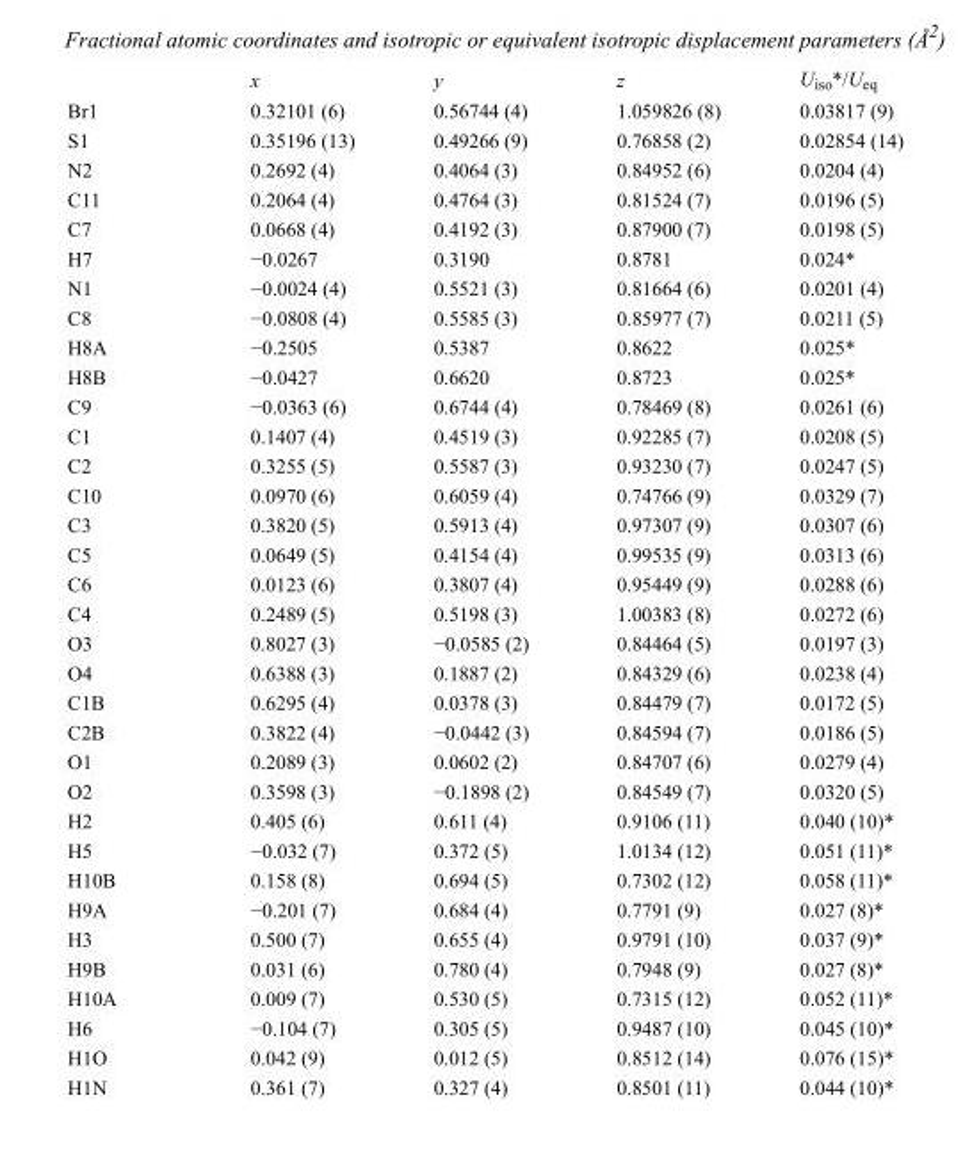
<table><thead><tr><td></td><td>x</td><td>y</td><td>z</td><td>U<sub>iso</sub>*/U<sub>eq</sub></td></tr></thead><tbody><tr><td>Br1</td><td>0.32101 (6)</td><td>0.56744 (4)</td><td>1.059826 (8)</td><td>0.03817 (9)</td></tr><tr><td>S1</td><td>0.35196 (13)</td><td>0.49266 (9)</td><td>0.76858 (2)</td><td>0.02854 (14)</td></tr><tr><td>N2</td><td>0.2692 (4)</td><td>0.4064 (3)</td><td>0.84952 (6)</td><td>0.0204 (4)</td></tr><tr><td>C11</td><td>0.2064 (4)</td><td>0.4764 (3)</td><td>0.81524 (7)</td><td>0.0196 (5)</td></tr><tr><td>C7</td><td>0.0668 (4)</td><td>0.4192 (3)</td><td>0.87900 (7)</td><td>0.0198 (5)</td></tr><tr><td>H7</td><td>−0.0267</td><td>0.3190</td><td>0.8781</td><td>0.024*</td></tr><tr><td>N1</td><td>−0.0024 (4)</td><td>0.5521 (3)</td><td>0.81664 (6)</td><td>0.0201 (4)</td></tr><tr><td>C8</td><td>−0.0808 (4)</td><td>0.5585 (3)</td><td>0.85977 (7)</td><td>0.0211 (5)</td></tr><tr><td>H8A</td><td>−0.2505</td><td>0.5387</td><td>0.8622</td><td>0.025*</td></tr><tr><td>H8B</td><td>−0.0427</td><td>0.6620</td><td>0.8723</td><td>0.025*</td></tr><tr><td>C9</td><td>−0.0363 (6)</td><td>0.6744 (4)</td><td>0.78469 (8)</td><td>0.0261 (6)</td></tr><tr><td>C1</td><td>0.1407 (4)</td><td>0.4519 (3)</td><td>0.92285 (7)</td><td>0.0208 (5)</td></tr><tr><td>C2</td><td>0.3255 (5)</td><td>0.5587 (3)</td><td>0.93230 (7)</td><td>0.0247 (5)</td></tr><tr><td>C10</td><td>0.0970 (6)</td><td>0.6059 (4)</td><td>0.74766 (9)</td><td>0.0329 (7)</td></tr><tr><td>C3</td><td>0.3820 (5)</td><td>0.5913 (4)</td><td>0.97307 (9)</td><td>0.0307 (6)</td></tr><tr><td>C5</td><td>0.0649 (5)</td><td>0.4154 (4)</td><td>0.99535 (9)</td><td>0.0313 (6)</td></tr><tr><td>C6</td><td>0.0123 (6)</td><td>0.3807 (4)</td><td>0.95449 (9)</td><td>0.0288 (6)</td></tr><tr><td>C4</td><td>0.2489 (5)</td><td>0.5198 (3)</td><td>1.00383 (8)</td><td>0.0272 (6)</td></tr><tr><td>O3</td><td>0.8027 (3)</td><td>−0.0585 (2)</td><td>0.84464 (5)</td><td>0.0197 (3)</td></tr><tr><td>O4</td><td>0.6388 (3)</td><td>0.1887 (2)</td><td>0.84329 (6)</td><td>0.0238 (4)</td></tr><tr><td>C1B</td><td>0.6295 (4)</td><td>0.0378 (3)</td><td>0.84479 (7)</td><td>0.0172 (5)</td></tr><tr><td>C2B</td><td>0.3822 (4)</td><td>−0.0442 (3)</td><td>0.84594 (7)</td><td>0.0186 (5)</td></tr><tr><td>O1</td><td>0.2089 (3)</td><td>0.0602 (2)</td><td>0.84707 (6)</td><td>0.0279 (4)</td></tr><tr><td>O2</td><td>0.3598 (3)</td><td>−0.1898 (2)</td><td>0.84549 (7)</td><td>0.0320 (5)</td></tr><tr><td>H2</td><td>0.405 (6)</td><td>0.611 (4)</td><td>0.9106 (11)</td><td>0.040 (10)*</td></tr><tr><td>H5</td><td>−0.032 (7)</td><td>0.372 (5)</td><td>1.0134 (12)</td><td>0.051 (11)*</td></tr><tr><td>H10B</td><td>0.158 (8)</td><td>0.694 (5)</td><td>0.7302 (12)</td><td>0.058 (11)*</td></tr><tr><td>H9A</td><td>−0.201 (7)</td><td>0.684 (4)</td><td>0.7791 (9)</td><td>0.027 (8)*</td></tr><tr><td>H3</td><td>0.500 (7)</td><td>0.655 (4)</td><td>0.9791 (10)</td><td>0.037 (9)*</td></tr><tr><td>H9B</td><td>0.031 (6)</td><td>0.780 (4)</td><td>0.7948 (9)</td><td>0.027 (8)*</td></tr><tr><td>H10A</td><td>0.009 (7)</td><td>0.530 (5)</td><td>0.7315 (12)</td><td>0.052 (11)*</td></tr><tr><td>H6</td><td>−0.104 (7)</td><td>0.305 (5)</td><td>0.9487 (10)</td><td>0.045 (10)*</td></tr><tr><td>H1O</td><td>0.042 (9)</td><td>0.012 (5)</td><td>0.8512 (14)</td><td>0.076 (15)*</td></tr><tr><td>H1N</td><td>0.361 (7)</td><td>0.327 (4)</td><td>0.8501 (11)</td><td>0.044 (10)*</td></tr></tbody></table>